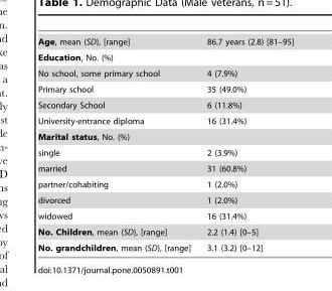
<table><tbody><tr><td>Age, mean (SD), [range]</td><td>86.7 years (2.8) [81–95]</td></tr><tr><td colspan="2">Education, No. (%)</td></tr><tr><td>No school, some primary school</td><td>4 (7.9%)</td></tr><tr><td>Primary school</td><td>35 (49.0%)</td></tr><tr><td>Secondary School</td><td>6 (11.8%)</td></tr><tr><td>University-entrance diploma</td><td>16 (31.4%)</td></tr><tr><td colspan="2">Marital status, No. (%)</td></tr><tr><td>single</td><td>2 (3.9%)</td></tr><tr><td>married</td><td>31 (60.8%)</td></tr><tr><td>partner/cohabiting</td><td>1 (2.0%)</td></tr><tr><td>divorced</td><td>1 (2.0%)</td></tr><tr><td>widowed</td><td>16 (31.4%)</td></tr><tr><td>No. Children, mean (SD), [range]</td><td>2.2 (1.4) [0–5]</td></tr><tr><td>No. grandchildren, mean (SD), [range]</td><td>3.1 (3.2) [0–12]</td></tr></tbody></table>